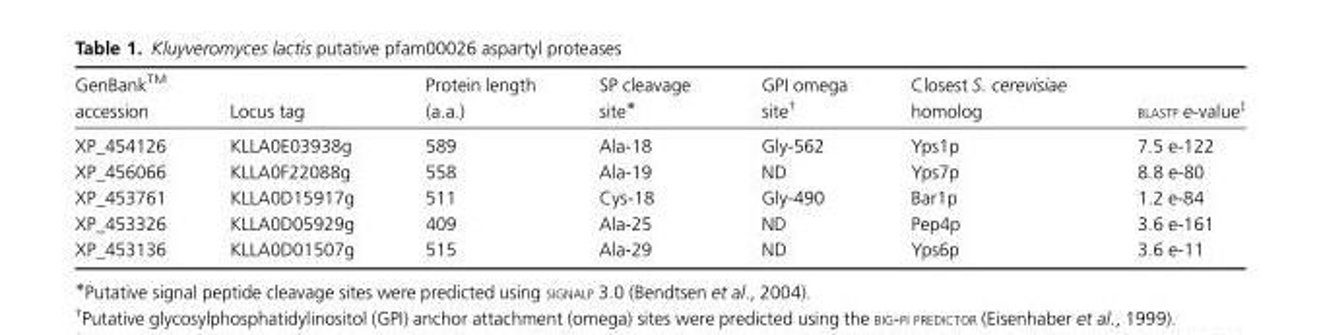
<table><thead><tr><td>GenBankTM accession</td><td>Locus tag</td><td>Protein length (a.a.)</td><td>SP cleavage site*</td><td>GPI omega site†</td><td>Closest S. cerevisiae homolog</td><td>BLASTP e-value‡</td></tr></thead><tbody><tr><td>XP_454126</td><td>KLLA0E03938g</td><td>589</td><td>Ala-18</td><td>Gly-562</td><td>Yps1p</td><td>7.5 e-122</td></tr><tr><td>XP_456066</td><td>KLLA0F22088g</td><td>558</td><td>Ala-19</td><td>ND</td><td>Yps7p</td><td>8.8 e-80</td></tr><tr><td>XP_453761</td><td>KLLA0D15917g</td><td>511</td><td>Cys-18</td><td>Gly-490</td><td>Bar1p</td><td>1.2 e-84</td></tr><tr><td>XP_453326</td><td>KLLA0D05929g</td><td>409</td><td>Ala-25</td><td>ND</td><td>Pep4p</td><td>3.6 e-161</td></tr><tr><td>XP_453136</td><td>KLLA0D01507g</td><td>515</td><td>Ala-29</td><td>ND</td><td>Yps6p</td><td>3.6 e-11</td></tr></tbody></table>